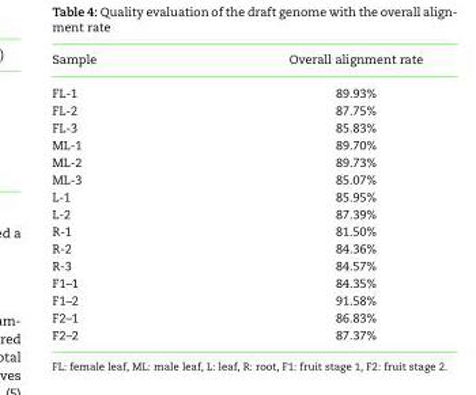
<table><thead><tr><td>Sample</td><td>Overall alignment rate</td></tr></thead><tbody><tr><td>FL-1</td><td>89.93%</td></tr><tr><td>FL-2</td><td>87.75%</td></tr><tr><td>FL-3</td><td>85.83%</td></tr><tr><td>ML-1</td><td>89.70%</td></tr><tr><td>ML-2</td><td>89.73%</td></tr><tr><td>ML-3</td><td>85.07%</td></tr><tr><td>L-1</td><td>85.95%</td></tr><tr><td>L-2</td><td>87.39%</td></tr><tr><td>R-1</td><td>81.50%</td></tr><tr><td>R-2</td><td>84.36%</td></tr><tr><td>R-3</td><td>84.57%</td></tr><tr><td>F1–1</td><td>84.35%</td></tr><tr><td>F1–2</td><td>91.58%</td></tr><tr><td>F2–1</td><td>86.83%</td></tr><tr><td>F2–2</td><td>87.37%</td></tr></tbody></table>